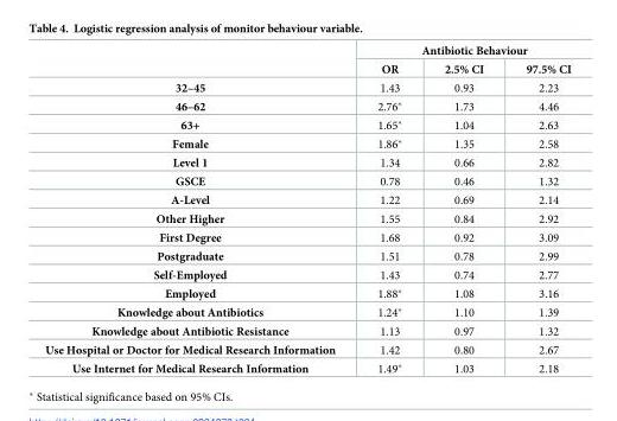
<table><thead><tr><td rowspan="2"></td><td colspan="3">Antibiotic Behaviour</td></tr><tr><td>OR</td><td>2.5% CI</td><td>97.5% CI</td></tr></thead><tbody><tr><td>32–45</td><td>1.43</td><td>0.93</td><td>2.23</td></tr><tr><td>46–62</td><td>2.76*</td><td>1.73</td><td>4.46</td></tr><tr><td>63+</td><td>1.65*</td><td>1.04</td><td>2.63</td></tr><tr><td>Female</td><td>1.86*</td><td>1.35</td><td>2.58</td></tr><tr><td>Level 1</td><td>1.34</td><td>0.66</td><td>2.82</td></tr><tr><td>GSCE</td><td>0.78</td><td>0.46</td><td>1.32</td></tr><tr><td>A-Level</td><td>1.22</td><td>0.69</td><td>2.14</td></tr><tr><td>Other Higher</td><td>1.55</td><td>0.84</td><td>2.92</td></tr><tr><td>First Degree</td><td>1.68</td><td>0.92</td><td>3.09</td></tr><tr><td>Postgraduate</td><td>1.51</td><td>0.78</td><td>2.99</td></tr><tr><td>Self-Employed</td><td>1.43</td><td>0.74</td><td>2.77</td></tr><tr><td>Employed</td><td>1.88*</td><td>1.08</td><td>3.16</td></tr><tr><td>Knowledge about Antibiotics</td><td>1.24*</td><td>1.10</td><td>1.39</td></tr><tr><td>Knowledge about Antibiotic Resistance</td><td>1.13</td><td>0.97</td><td>1.32</td></tr><tr><td>Use Hospital or Doctor for Medical Research Information</td><td>1.42</td><td>0.80</td><td>2.67</td></tr><tr><td>Use Internet for Medical Research Information</td><td>1.49*</td><td>1.03</td><td>2.18</td></tr></tbody></table>